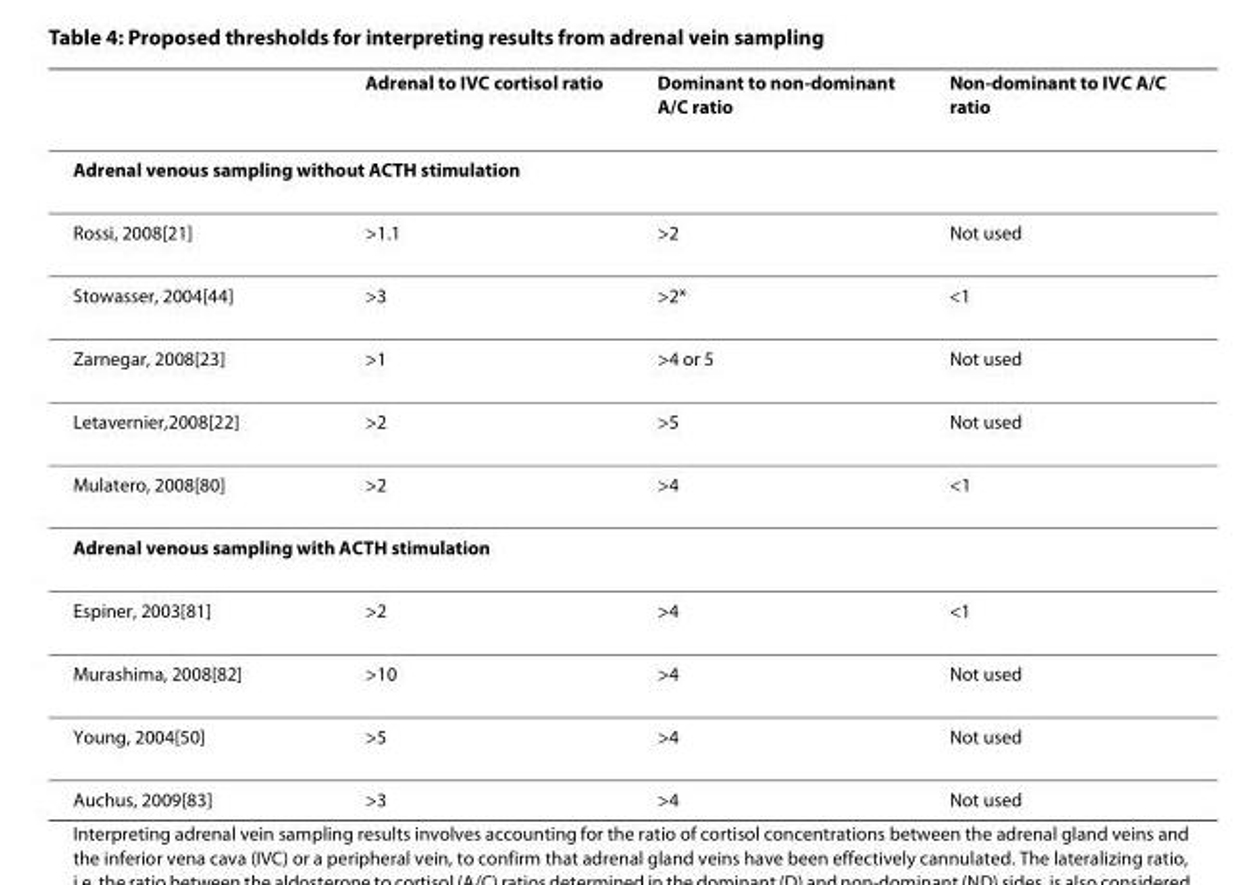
<table><thead><tr><td></td><td>Adrenal to IVC cortisol ratio</td><td>Dominant to non-dominant A/C ratio</td><td>Non-dominant to IVC A/C ratio</td></tr></thead><tbody><tr><td colspan="4">Adrenal venous sampling without ACTH stimulation</td></tr><tr><td>Rossi, 2008[21]</td><td>&gt;1.1</td><td>&gt;2</td><td>Not used</td></tr><tr><td>Stowasser, 2004[44]</td><td>&gt;3</td><td>&gt;2*</td><td>&lt;1</td></tr><tr><td>Zarnegar, 2008[23]</td><td>&gt;1</td><td>&gt;4 or 5</td><td>Not used</td></tr><tr><td>Letavernier,2008[22]</td><td>&gt;2</td><td>&gt;5</td><td>Not used</td></tr><tr><td>Mulatero, 2008[80]</td><td>&gt;2</td><td>&gt;4</td><td>&lt;1</td></tr><tr><td colspan="4">Adrenal venous sampling with ACTH stimulation</td></tr><tr><td>Espiner, 2003[81]</td><td>&gt;2</td><td>&gt;4</td><td>&lt;1</td></tr><tr><td>Murashima, 2008[82]</td><td>&gt;10</td><td>&gt;4</td><td>Not used</td></tr><tr><td>Young, 2004[50]</td><td>&gt;5</td><td>&gt;4</td><td>Not used</td></tr><tr><td>Auchus, 2009[83]</td><td>&gt;3</td><td>&gt;4</td><td>Not used</td></tr></tbody></table>